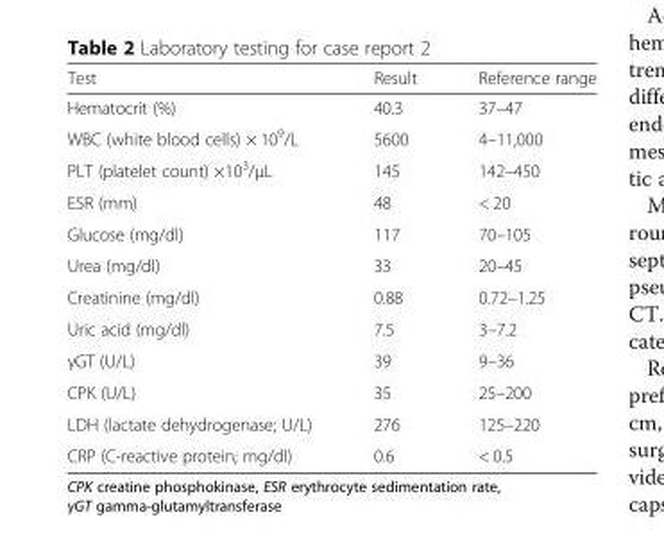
<table><thead><tr><td>Test</td><td>Result</td><td>Reference range</td></tr></thead><tbody><tr><td>Hematocrit (%)</td><td>40.3</td><td>37–47</td></tr><tr><td>WBC (white blood cells) × 10<sup>9</sup>/L</td><td>5600</td><td>4–11,000</td></tr><tr><td>PLT (platelet count) ×10<sup>3</sup>/μL</td><td>145</td><td>142–450</td></tr><tr><td>ESR (mm)</td><td>48</td><td>&lt; 20</td></tr><tr><td>Glucose (mg/dl)</td><td>117</td><td>70–105</td></tr><tr><td>Urea (mg/dl)</td><td>33</td><td>20–45</td></tr><tr><td>Creatinine (mg/dl)</td><td>0.88</td><td>0.72–1.25</td></tr><tr><td>Uric acid (mg/dl)</td><td>7.5</td><td>3–7.2</td></tr><tr><td>γGT (U/L)</td><td>39</td><td>9–36</td></tr><tr><td>CPK (U/L)</td><td>35</td><td>25–200</td></tr><tr><td>LDH (lactate dehydrogenase; U/L)</td><td>276</td><td>125–220</td></tr><tr><td>CRP (C-reactive protein; mg/dl)</td><td>0.6</td><td>&lt; 0.5</td></tr></tbody></table>